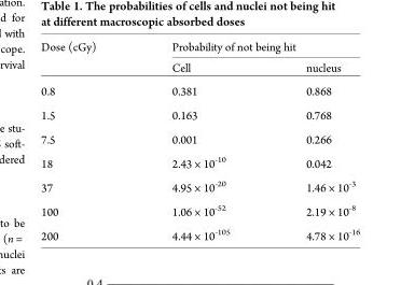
<table><thead><tr><td rowspan="2">Dose (cGy)</td><td colspan="2">Probability of not being hit</td></tr><tr><td>Cell</td><td>nucleus</td></tr></thead><tbody><tr><td>0.8</td><td>0.381</td><td>0.868</td></tr><tr><td>1.5</td><td>0.163</td><td>0.768</td></tr><tr><td>7.5</td><td>0.001</td><td>0.266</td></tr><tr><td>18</td><td>2.43 × 10<sup>-10</sup></td><td>0.042</td></tr><tr><td>37</td><td>4.95 × 10<sup>-20</sup></td><td>1.46 × 10<sup>-3</sup></td></tr><tr><td>100</td><td>1.06 × 10<sup>-52</sup></td><td>2.19 × 10<sup>-8</sup></td></tr><tr><td>200</td><td>4.44 × 10<sup>-105</sup></td><td>4.78 × 10<sup>-16</sup></td></tr></tbody></table>